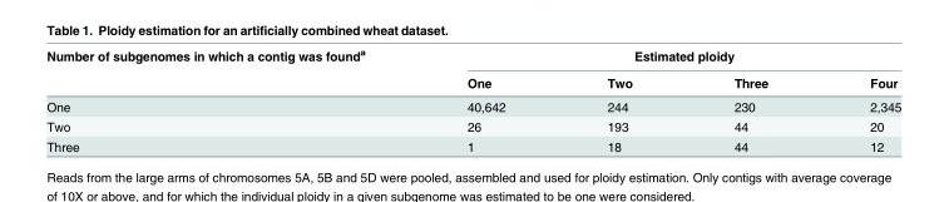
<table><thead><tr><td rowspan="2">Number of subgenomes in which a contig was found<sup>a</sup></td><td colspan="4">Estimated ploidy</td></tr><tr><td>One</td><td>Two</td><td>Three</td><td>Four</td></tr></thead><tbody><tr><td>One</td><td>40,642</td><td>244</td><td>230</td><td>2,345</td></tr><tr><td>Two</td><td>26</td><td>193</td><td>44</td><td>20</td></tr><tr><td>Three</td><td>1</td><td>18</td><td>44</td><td>12</td></tr></tbody></table>